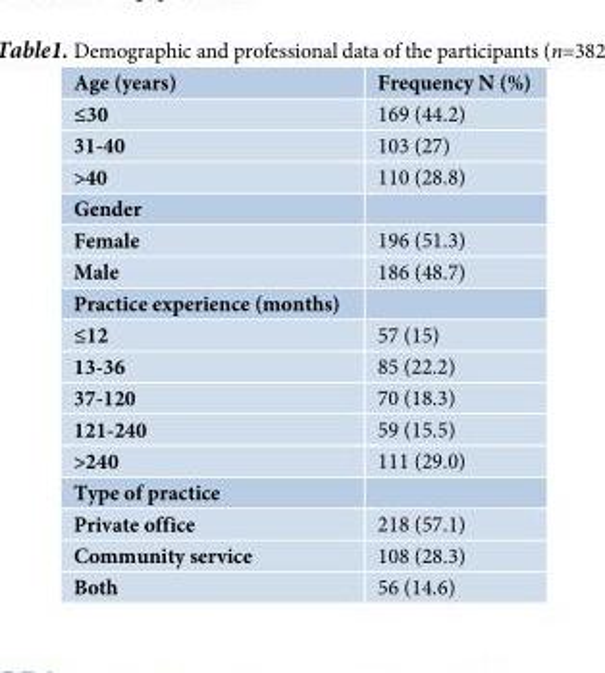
<table><thead><tr><td>Age (years)</td><td>Frequency N (%)</td></tr></thead><tbody><tr><td>≤30</td><td>169 (44.2)</td></tr><tr><td>31-40</td><td>103 (27)</td></tr><tr><td>&gt;40</td><td>110 (28.8)</td></tr><tr><td colspan="2">Gender</td></tr><tr><td>Female</td><td>196 (51.3)</td></tr><tr><td>Male</td><td>186 (48.7)</td></tr><tr><td colspan="2">Practice experience (months)</td></tr><tr><td>≤12</td><td>57 (15)</td></tr><tr><td>13-36</td><td>85 (22.2)</td></tr><tr><td>37-120</td><td>70 (18.3)</td></tr><tr><td>121-240</td><td>59 (15.5)</td></tr><tr><td>&gt;240</td><td>111 (29.0)</td></tr><tr><td colspan="2">Type of practice</td></tr><tr><td>Private office</td><td>218 (57.1)</td></tr><tr><td>Community service</td><td>108 (28.3)</td></tr><tr><td>Both</td><td>56 (14.6)</td></tr></tbody></table>